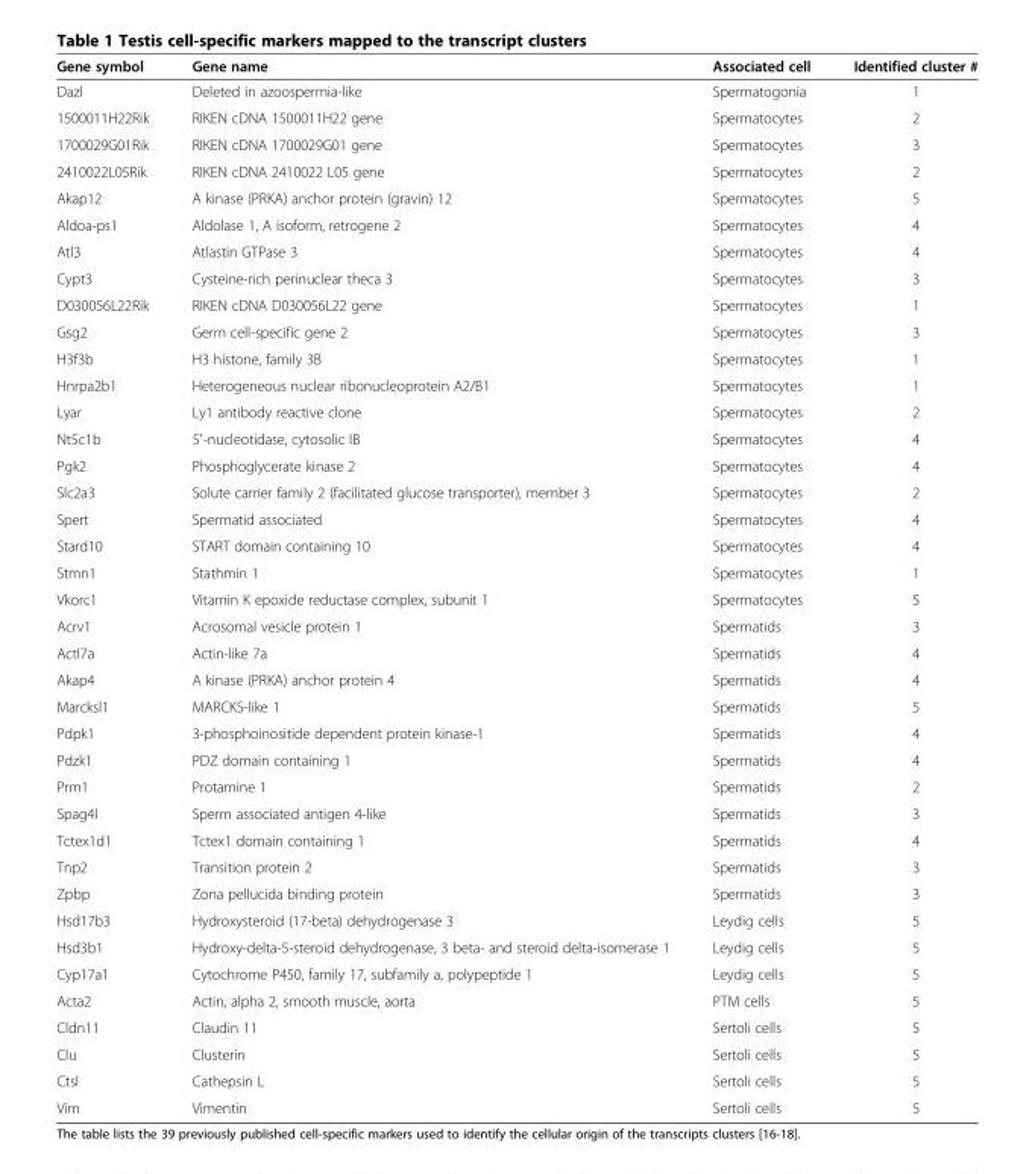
<table><thead><tr><td>Gene symbol</td><td>Gene name</td><td>Associated cell</td><td>Identified cluster #</td></tr></thead><tbody><tr><td>Dazl</td><td>Deleted in azoospermia-like</td><td>Spermatogonia</td><td>1</td></tr><tr><td>1500011H22Rik</td><td>RIKEN cDNA 1500011H22 gene</td><td>Spermatocytes</td><td>2</td></tr><tr><td>1700029G01Rik</td><td>RIKEN cDNA 1700029G01 gene</td><td>Spermatocytes</td><td>3</td></tr><tr><td>2410022L05Rik</td><td>RIKEN cDNA 2410022 L05 gene</td><td>Spermatocytes</td><td>2</td></tr><tr><td>Akap12</td><td>A kinase (PRKA) anchor protein (gravin) 12</td><td>Spermatocytes</td><td>5</td></tr><tr><td>Aldoa-ps1</td><td>Aldolase 1, A isoform, retrogene 2</td><td>Spermatocytes</td><td>4</td></tr><tr><td>Atl3</td><td>Atlastin GTPase 3</td><td>Spermatocytes</td><td>4</td></tr><tr><td>Cypt3</td><td>Cysteine-rich perinuclear theca 3</td><td>Spermatocytes</td><td>3</td></tr><tr><td>D030056L22Rik</td><td>RIKEN cDNA D030056L22 gene</td><td>Spermatocytes</td><td>1</td></tr><tr><td>Gsg2</td><td>Germ cell-specific gene 2</td><td>Spermatocytes</td><td>3</td></tr><tr><td>H3f3b</td><td>H3 histone, family 3B</td><td>Spermatocytes</td><td>1</td></tr><tr><td>Hnrpa2b1</td><td>Heterogeneous nuclear ribonucleoprotein A2/B1</td><td>Spermatocytes</td><td>1</td></tr><tr><td>Lyar</td><td>Ly1 antibody reactive clone</td><td>Spermatocytes</td><td>2</td></tr><tr><td>Nt5c1b</td><td>5′-nucleotidase, cytosolic IB</td><td>Spermatocytes</td><td>4</td></tr><tr><td>Pgk2</td><td>Phosphoglycerate kinase 2</td><td>Spermatocytes</td><td>4</td></tr><tr><td>Slc2a3</td><td>Solute carrier family 2 (facilitated glucose transporter), member 3</td><td>Spermatocytes</td><td>2</td></tr><tr><td>Spert</td><td>Spermatid associated</td><td>Spermatocytes</td><td>4</td></tr><tr><td>Stard10</td><td>START domain containing 10</td><td>Spermatocytes</td><td>4</td></tr><tr><td>Stmn1</td><td>Stathmin 1</td><td>Spermatocytes</td><td>1</td></tr><tr><td>Vkorc1</td><td>Vitamin K epoxide reductase complex, subunit 1</td><td>Spermatocytes</td><td>5</td></tr><tr><td>Acrv1</td><td>Acrosomal vesicle protein 1</td><td>Spermatids</td><td>3</td></tr><tr><td>Actl7a</td><td>Actin-like 7a</td><td>Spermatids</td><td>4</td></tr><tr><td>Akap4</td><td>A kinase (PRKA) anchor protein 4</td><td>Spermatids</td><td>4</td></tr><tr><td>Marcksl1</td><td>MARCKS-like 1</td><td>Spermatids</td><td>5</td></tr><tr><td>Pdpk1</td><td>3-phosphoinositide dependent protein kinase-1</td><td>Spermatids</td><td>4</td></tr><tr><td>Pdzk1</td><td>PDZ domain containing 1</td><td>Spermatids</td><td>4</td></tr><tr><td>Prm1</td><td>Protamine 1</td><td>Spermatids</td><td>2</td></tr><tr><td>Spag4l</td><td>Sperm associated antigen 4-like</td><td>Spermatids</td><td>3</td></tr><tr><td>Tctex1d1</td><td>Tctex1 domain containing 1</td><td>Spermatids</td><td>4</td></tr><tr><td>Tnp2</td><td>Transition protein 2</td><td>Spermatids</td><td>3</td></tr><tr><td>Zpbp</td><td>Zona pellucida binding protein</td><td>Spermatids</td><td>3</td></tr><tr><td>Hsd17b3</td><td>Hydroxysteroid (17-beta) dehydrogenase 3</td><td>Leydig cells</td><td>5</td></tr><tr><td>Hsd3b1</td><td>Hydroxy-delta-5-steroid dehydrogenase, 3 beta- and steroid delta-isomerase 1</td><td>Leydig cells</td><td>5</td></tr><tr><td>Cyp17a1</td><td>Cytochrome P450, family 17, subfamily a, polypeptide 1</td><td>Leydig cells</td><td>5</td></tr><tr><td>Acta2</td><td>Actin, alpha 2, smooth muscle, aorta</td><td>PTM cells</td><td>5</td></tr><tr><td>Cldn11</td><td>Claudin 11</td><td>Sertoli cells</td><td>5</td></tr><tr><td>Clu</td><td>Clusterin</td><td>Sertoli cells</td><td>5</td></tr><tr><td>Ctsl</td><td>Cathepsin L</td><td>Sertoli cells</td><td>5</td></tr><tr><td>Vim</td><td>Vimentin</td><td>Sertoli cells</td><td>5</td></tr></tbody></table>